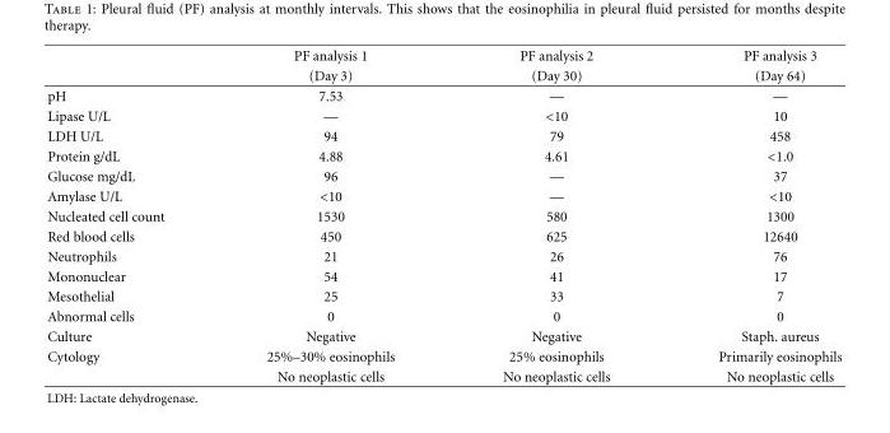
<table><thead><tr><td rowspan="2"></td><td rowspan="2">PF analysis 1 (Day 3)</td><td rowspan="2">PF analysis 2 (Day 30)</td><td rowspan="2">PF analysis 3 (Day 64)</td></tr><tr></tr></thead><tbody><tr><td>pH</td><td>7.53</td><td>—</td><td>—</td></tr><tr><td>Lipase U/L</td><td>—</td><td>&lt;10</td><td>10</td></tr><tr><td>LDH U/L</td><td>94</td><td>79</td><td>458</td></tr><tr><td>Protein g/dL</td><td>4.88</td><td>4.61</td><td>&lt;1.0</td></tr><tr><td>Glucose mg/dL</td><td>96</td><td>—</td><td>37</td></tr><tr><td>Amylase U/L</td><td>&lt;10</td><td>—</td><td>&lt;10</td></tr><tr><td>Nucleated cell count</td><td>1530</td><td>580</td><td>1300</td></tr><tr><td>Red blood cells</td><td>450</td><td>625</td><td>12640</td></tr><tr><td>Neutrophils</td><td>21</td><td>26</td><td>76</td></tr><tr><td>Mononuclear</td><td>54</td><td>41</td><td>17</td></tr><tr><td>Mesothelial</td><td>25</td><td>33</td><td>7</td></tr><tr><td>Abnormal cells</td><td>0</td><td>0</td><td>0</td></tr><tr><td>Culture</td><td>Negative</td><td>Negative</td><td>Staph. aureus</td></tr><tr><td rowspan="2">Cytology</td><td>25%–30% eosinophils</td><td>25% eosinophils</td><td>Primarily eosinophils</td></tr><tr><td>No neoplastic cells</td><td>No neoplastic cells</td><td>No neoplastic cells</td></tr></tbody></table>